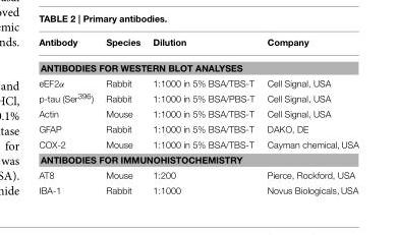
<table><thead><tr><td>Antibody</td><td>Species</td><td>Dilution</td><td>Company</td></tr></thead><tbody><tr><td colspan="4">ANTIBODIES FOR WESTERN BLOT ANALYSES</td></tr><tr><td>eEF2α</td><td>Rabbit</td><td>1:1000 in 5% BSA/TBS-T</td><td>Cell Signal, USA</td></tr><tr><td>p-tau (Ser<sup>396</sup>)</td><td>Rabbit</td><td>1:1000 in 5% BSA/PBS-T</td><td>Cell Signal, USA</td></tr><tr><td>Actin</td><td>Mouse</td><td>1:1000 in 5% BSA/TBS-T</td><td>Cell Signal, USA</td></tr><tr><td>GFAP</td><td>Rabbit</td><td>1:1000 in 5% BSA/TBS-T</td><td>DAKO, DE</td></tr><tr><td>COX-2</td><td>Mouse</td><td>1:1000 in 5% BSA/TBS-T</td><td>Cayman chemical, USA</td></tr><tr><td colspan="4">ANTIBODIES FOR IMMUNOHISTOCHEMISTRY</td></tr><tr><td>AT8</td><td>Mouse</td><td>1:200</td><td>Pierce, Rockford, USA</td></tr><tr><td>IBA-1</td><td>Rabbit</td><td>1:1000</td><td>Novus Biologicals, USA</td></tr></tbody></table>